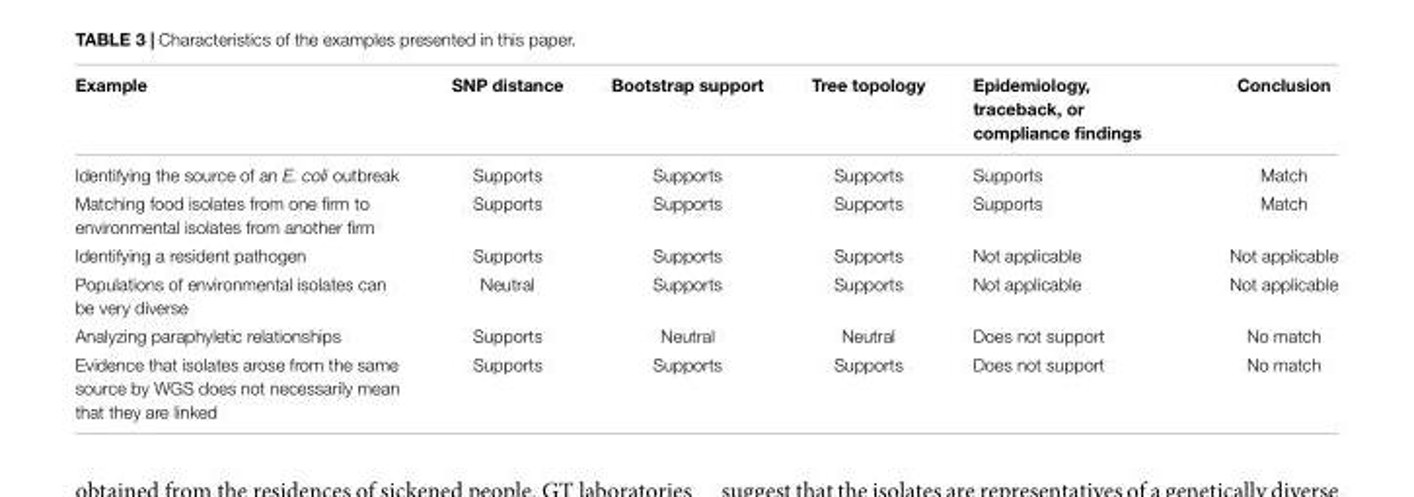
<table><thead><tr><td>Example</td><td>SNP distance</td><td>Bootstrap support</td><td>Tree topology</td><td>Epidemiology, traceback, or compliance findings</td><td>Conclusion</td></tr></thead><tbody><tr><td>Identifying the source of an E. coli outbreak</td><td>Supports</td><td>Supports</td><td>Supports</td><td>Supports</td><td>Match</td></tr><tr><td>Matching food isolates from one firm to environmental isolates from another firm</td><td>Supports</td><td>Supports</td><td>Supports</td><td>Supports</td><td>Match</td></tr><tr><td>Identifying a resident pathogen</td><td>Supports</td><td>Supports</td><td>Supports</td><td>Not applicable</td><td>Not applicable</td></tr><tr><td>Populations of environmental isolates can be very diverse</td><td>Neutral</td><td>Supports</td><td>Supports</td><td>Not applicable</td><td>Not applicable</td></tr><tr><td>Analyzing paraphyletic relationships</td><td>Supports</td><td>Neutral</td><td>Neutral</td><td>Does not support</td><td>No match</td></tr><tr><td>Evidence that isolates arose from the same source by WGS does not necessarily mean that they are linked</td><td>Supports</td><td>Supports</td><td>Supports</td><td>Does not support</td><td>No match</td></tr></tbody></table>